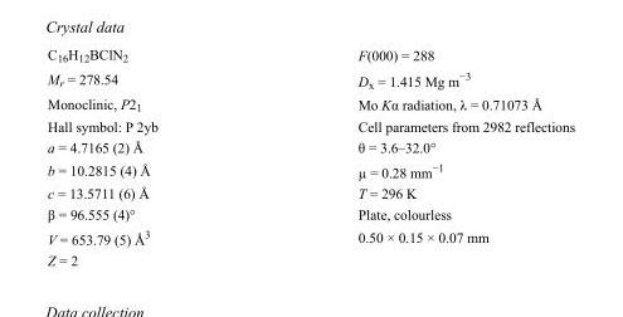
<table><tbody><tr><td>C<sub>16</sub>H<sub>12</sub>BClN<sub>2</sub></td><td>F(000) = 288</td></tr><tr><td>M<sub>r</sub> = 278.54</td><td>D<sub>x</sub> = 1.415 Mg m<sup>−3</sup></td></tr><tr><td>Monoclinic, P2<sub>1</sub></td><td>Mo Kα radiation, λ = 0.71073 Å</td></tr><tr><td>Hall symbol: P 2yb</td><td>Cell parameters from 2982 reflections</td></tr><tr><td>a = 4.7165 (2) Å</td><td>θ = 3.6–32.0°</td></tr><tr><td>b = 10.2815 (4) Å</td><td>µ = 0.28 mm<sup>−1</sup></td></tr><tr><td>c = 13.5711 (6) Å</td><td>T = 296 K</td></tr><tr><td>β = 96.555 (4)°</td><td>Plate, colourless</td></tr><tr><td>V = 653.79 (5) Å<sup>3</sup></td><td>0.50 × 0.15 × 0.07 mm</td></tr><tr><td>Z = 2</td><td></td></tr></tbody></table>